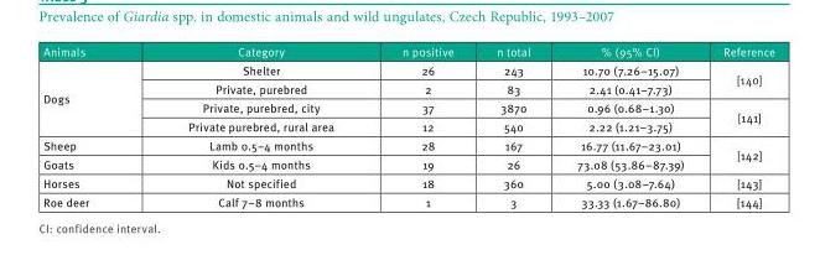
<table><thead><tr><td>Animals</td><td>Category</td><td>n positive</td><td>n total</td><td>% (95% CI)</td><td>Reference</td></tr></thead><tbody><tr><td rowspan="4">Dogs</td><td>Shelter</td><td>26</td><td>243</td><td>10.70 (7.26–15.07)</td><td rowspan="2">[140]</td></tr><tr><td>Private, purebred</td><td>2</td><td>83</td><td>2.41 (0.41–7.73)</td></tr><tr><td>Private, purebred, city</td><td>37</td><td>3870</td><td>0.96 (0.68–1.30)</td><td rowspan="2">[141]</td></tr><tr><td>Private purebred, rural area</td><td>12</td><td>540</td><td>2.22 (1.21–3.75)</td></tr><tr><td>Sheep</td><td>Lamb 0.5–4 months</td><td>28</td><td>167</td><td>16.77 (11.67–23.01)</td><td rowspan="2">[142]</td></tr><tr><td>Goats</td><td>Kids 0.5–4 months</td><td>19</td><td>26</td><td>73.08 (53.86–87.39)</td></tr><tr><td>Horses</td><td>Not specified</td><td>18</td><td>360</td><td>5.00 (3.08–7.64)</td><td>[143]</td></tr><tr><td>Roe deer</td><td>Calf 7–8 months</td><td>1</td><td>3</td><td>33.33 (1.67–86.80)</td><td>[144]</td></tr></tbody></table>